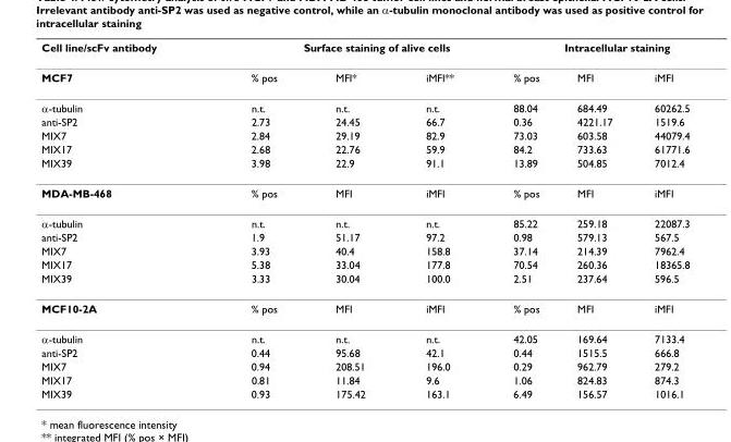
<table><thead><tr><td rowspan="2">Cell line/scFv antibody MCF7</td><td colspan="3">Surface staining of alive cells</td><td colspan="3">Intracellular staining</td></tr><tr><td>% pos</td><td>MFI*</td><td>iMFI**</td><td>% pos</td><td>MFI</td><td>iMFI</td></tr></thead><tbody><tr><td>α-tubulin</td><td>n.t.</td><td>n.t.</td><td>n.t.</td><td>88.04</td><td>684.49</td><td>60262.5</td></tr><tr><td>anti-SP2</td><td>2.73</td><td>24.45</td><td>66.7</td><td>0.36</td><td>4221.17</td><td>1519.6</td></tr><tr><td>MIX7</td><td>2.84</td><td>29.19</td><td>82.9</td><td>73.03</td><td>603.58</td><td>44079.4</td></tr><tr><td>MIX17</td><td>2.68</td><td>22.76</td><td>59.9</td><td>84.2</td><td>733.63</td><td>61771.6</td></tr><tr><td>MIX39</td><td>3.98</td><td>22.9</td><td>91.1</td><td>13.89</td><td>504.85</td><td>7012.4</td></tr><tr><td>MDA-MB-468</td><td>% pos</td><td>MFI</td><td>iMFI</td><td>% pos</td><td>MFI</td><td>iMFI</td></tr><tr><td>α-tubulin</td><td>n.t.</td><td>n.t.</td><td>n.t.</td><td>85.22</td><td>259.18</td><td>22087.3</td></tr><tr><td>anti-SP2</td><td>1.9</td><td>51.17</td><td>97.2</td><td>0.98</td><td>579.13</td><td>567.5</td></tr><tr><td>MIX7</td><td>3.93</td><td>40.4</td><td>158.8</td><td>37.14</td><td>214.39</td><td>7962.4</td></tr><tr><td>MIX17</td><td>5.38</td><td>33.04</td><td>177.8</td><td>70.54</td><td>260.36</td><td>18365.8</td></tr><tr><td>MIX39</td><td>3.33</td><td>30.04</td><td>100.0</td><td>2.51</td><td>237.64</td><td>596.5</td></tr><tr><td>MCF10-2A</td><td>% pos</td><td>MFI</td><td>iMFI</td><td>% pos</td><td>MFI</td><td>iMFI</td></tr><tr><td>α-tubulin</td><td>n.t.</td><td>n.t.</td><td>n.t.</td><td>42.05</td><td>169.64</td><td>7133.4</td></tr><tr><td>anti-SP2</td><td>0.44</td><td>95.68</td><td>42.1</td><td>0.44</td><td>1515.5</td><td>666.8</td></tr><tr><td>MIX7</td><td>0.94</td><td>208.51</td><td>196.0</td><td>0.29</td><td>962.79</td><td>279.2</td></tr><tr><td>MIX17</td><td>0.81</td><td>11.84</td><td>9.6</td><td>1.06</td><td>824.83</td><td>874.3</td></tr><tr><td>MIX39</td><td>0.93</td><td>175.42</td><td>163.1</td><td>6.49</td><td>156.57</td><td>1016.1</td></tr></tbody></table>